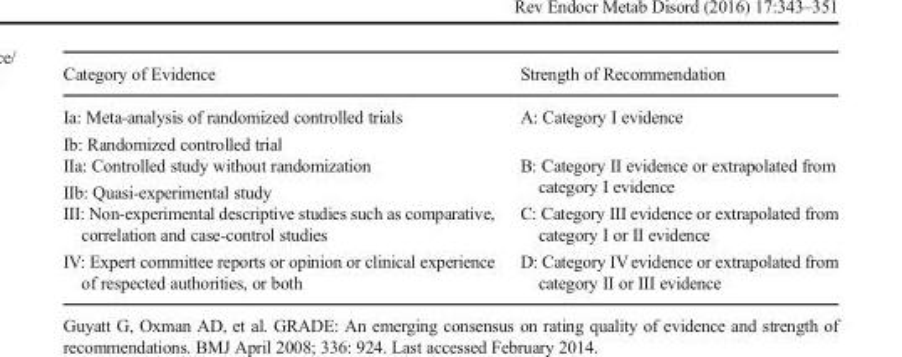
<table><thead><tr><td>Category of Evidence</td><td>Strength of Recommendation</td></tr></thead><tbody><tr><td>Ia: Meta-analysis of randomized controlled trials Ib: Randomized controlled trial</td><td>A: Category I evidence</td></tr><tr><td>IIa: Controlled study without randomization IIb: Quasi-experimental study</td><td>B: Category II evidence or extrapolated from category I evidence</td></tr><tr><td>III: Non-experimental descriptive studies such as comparative, correlation and case-control studies</td><td>C: Category III evidence or extrapolated from category I or II evidence</td></tr><tr><td>IV: Expert committee reports or opinion or clinical experience of respected authorities, or both</td><td>D: Category IVevidence or extrapolated from category II or III evidence</td></tr></tbody></table>